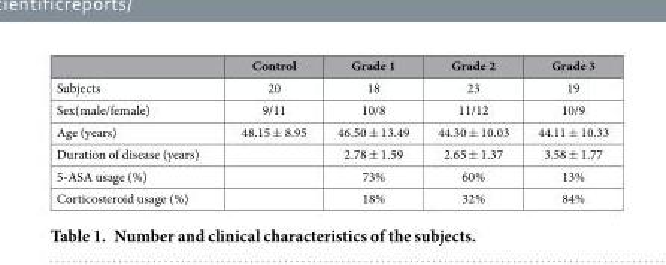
<table><thead><tr><td></td><td>Control</td><td>Grade 1</td><td>Grade 2</td><td>Grade 3</td></tr></thead><tbody><tr><td>Subjects</td><td>20</td><td>18</td><td>23</td><td>19</td></tr><tr><td>Sex(male/female)</td><td>9/11</td><td>10/8</td><td>11/12</td><td>10/9</td></tr><tr><td>Age (years)</td><td>48.15 ± 8.95</td><td>46.50 ± 13.49</td><td>44.30 ± 10.03</td><td>44.11 ± 10.33</td></tr><tr><td>Duration of disease (years)</td><td></td><td>2.78 ± 1.59</td><td>2.65 ± 1.37</td><td>3.58 ± 1.77</td></tr><tr><td>5-ASA usage (%)</td><td></td><td>73%</td><td>60%</td><td>13%</td></tr><tr><td>Corticosteroid usage (%)</td><td></td><td>18%</td><td>32%</td><td>84%</td></tr></tbody></table>